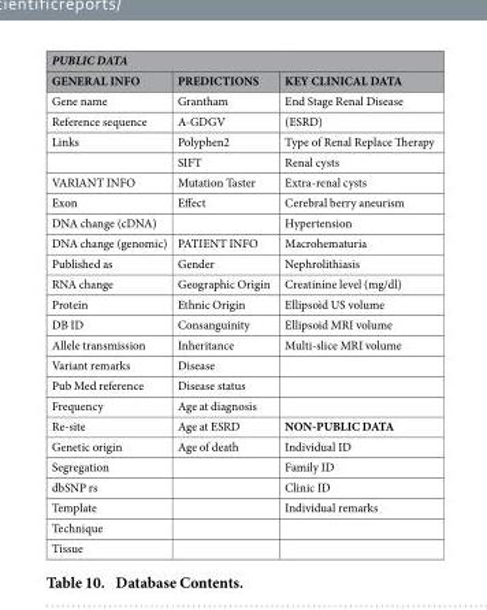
<table><thead><tr><td colspan="3">PUBLIC DATA</td></tr><tr><td>GENERAL INFO</td><td>PREDICTIONS</td><td>KEY CLINICAL DATA</td></tr></thead><tbody><tr><td>Gene name</td><td>Grantham</td><td>End Stage Renal Disease</td></tr><tr><td>Reference sequence</td><td>A-GDGV</td><td>(ESRD)</td></tr><tr><td rowspan="2">Links</td><td>Polyphen2</td><td>Type of Renal Replace Therapy</td></tr><tr><td>SIFT</td><td>Renal cysts</td></tr><tr><td>VARIANT INFO</td><td>Mutation Taster</td><td>Extra-renal cysts</td></tr><tr><td>Exon</td><td>Effect</td><td>Cerebral berry aneurism</td></tr><tr><td>DNA change (cDNA)</td><td></td><td>Hypertension</td></tr><tr><td>DNA change (genomic)</td><td>PATIENT INFO</td><td>Macrohematuria</td></tr><tr><td>Published as</td><td>Gender</td><td>Nephrolithiasis</td></tr><tr><td>RNA change</td><td>Geographic Origin</td><td>Creatinine level (mg/dl)</td></tr><tr><td>Protein</td><td>Ethnic Origin</td><td>Ellipsoid US volume</td></tr><tr><td>DB ID</td><td>Consanguinity</td><td>Ellipsoid MRI volume</td></tr><tr><td>Allele transmission</td><td>Inheritance</td><td>Multi-slice MRI volume</td></tr><tr><td>Variant remarks</td><td>Disease</td><td></td></tr><tr><td>Pub Med reference</td><td>Disease status</td><td></td></tr><tr><td>Frequency</td><td>Age at diagnosis</td><td></td></tr><tr><td>Re-site</td><td>Age at ESRD</td><td>NON-PUBLIC DATA</td></tr><tr><td>Genetic origin</td><td>Age of death</td><td>Individual ID</td></tr><tr><td>Segregation</td><td></td><td>Family ID</td></tr><tr><td>dbSNP rs</td><td></td><td>Clinic ID</td></tr><tr><td>Template</td><td></td><td>Individual remarks</td></tr><tr><td colspan="3">Technique</td></tr><tr><td>Tissue</td><td></td><td></td></tr></tbody></table>